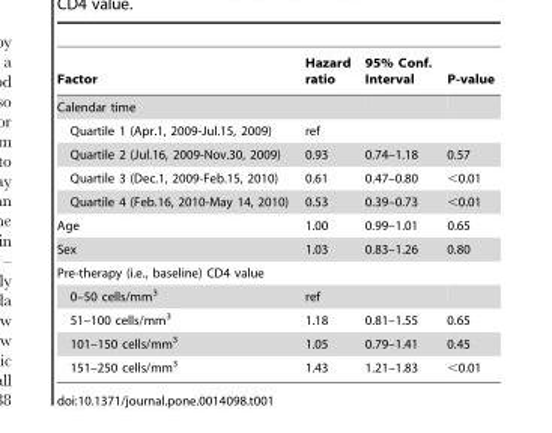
<table><thead><tr><td>Factor</td><td>Hazard ratio</td><td>95% Conf. Interval</td><td>P-value</td></tr></thead><tbody><tr><td colspan="4">Calendar time</td></tr><tr><td>Quartile 1 (Apr.1, 2009-Jul.15, 2009)</td><td>ref</td><td></td><td></td></tr><tr><td>Quartile 2 (Jul.16, 2009-Nov.30, 2009)</td><td>0.93</td><td>0.74–1.18</td><td>0.57</td></tr><tr><td>Quartile 3 (Dec.1, 2009-Feb.15, 2010)</td><td>0.61</td><td>0.47–0.80</td><td>&lt;0.01</td></tr><tr><td>Quartile 4 (Feb.16, 2010-May 14, 2010)</td><td>0.53</td><td>0.39–0.73</td><td>&lt;0.01</td></tr><tr><td>Age</td><td>1.00</td><td>0.99–1.01</td><td>0.65</td></tr><tr><td>Sex</td><td>1.03</td><td>0.83–1.26</td><td>0.80</td></tr><tr><td colspan="4">Pre-therapy (i.e., baseline) CD4 value</td></tr><tr><td>0–50 cells/mm<sup>3</sup></td><td>ref</td><td></td><td></td></tr><tr><td>51–100 cells/mm<sup>3</sup></td><td>1.18</td><td>0.81–1.55</td><td>0.65</td></tr><tr><td>101–150 cells/mm<sup>3</sup></td><td>1.05</td><td>0.79–1.41</td><td>0.45</td></tr><tr><td>151–250 cells/mm<sup>3</sup></td><td>1.43</td><td>1.21–1.83</td><td>&lt;0.01</td></tr></tbody></table>